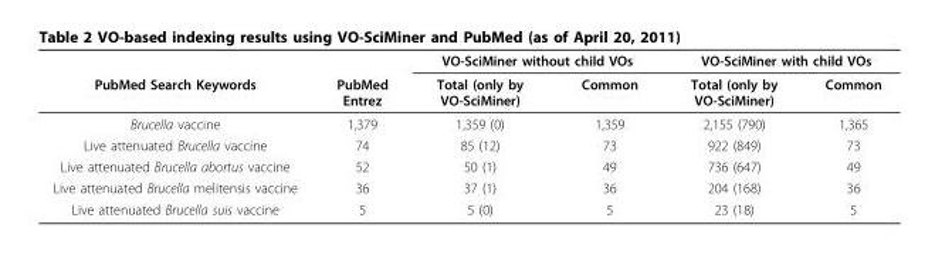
<table><thead><tr><td rowspan="2">PubMed Search Keywords</td><td rowspan="2">PubMed Entrez</td><td colspan="2">VO-SciMiner without child VOs</td><td colspan="2">VO-SciMiner with child VOs</td></tr><tr><td>Total (only by VO-SciMiner)</td><td>Common</td><td>Total (only by VO-SciMiner)</td><td>Common</td></tr></thead><tbody><tr><td>Brucella vaccine</td><td>1,379</td><td>1,359 (0)</td><td>1,359</td><td>2,155 (790)</td><td>1,365</td></tr><tr><td>Live attenuated Brucella vaccine</td><td>74</td><td>85 (12)</td><td>73</td><td>922 (849)</td><td>73</td></tr><tr><td>Live attenuated Brucella abortus vaccine</td><td>52</td><td>50 (1)</td><td>49</td><td>736 (647)</td><td>49</td></tr><tr><td>Live attenuated Brucella melitensis vaccine</td><td>36</td><td>37 (1)</td><td>36</td><td>204 (168)</td><td>36</td></tr><tr><td>Live attenuated Brucella suis vaccine</td><td>5</td><td>5 (0)</td><td>5</td><td>23 (18)</td><td>5</td></tr></tbody></table>